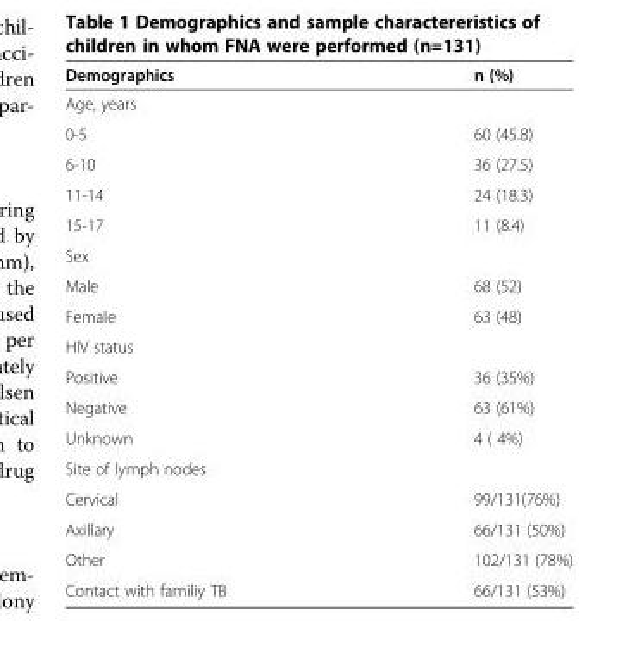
<table><thead><tr><td>Demographics</td><td>n (%)</td></tr></thead><tbody><tr><td colspan="2">Age, years</td></tr><tr><td>0-5</td><td>60 (45.8)</td></tr><tr><td>6-10</td><td>36 (27.5)</td></tr><tr><td>11-14</td><td>24 (18.3)</td></tr><tr><td>15-17</td><td>11 (8.4)</td></tr><tr><td colspan="2">Sex</td></tr><tr><td>Male</td><td>68 (52)</td></tr><tr><td>Female</td><td>63 (48)</td></tr><tr><td colspan="2">HIV status</td></tr><tr><td>Positive</td><td>36 (35%)</td></tr><tr><td>Negative</td><td>63 (61%)</td></tr><tr><td>Unknown</td><td>4 ( 4%)</td></tr><tr><td colspan="2">Site of lymph nodes</td></tr><tr><td>Cervical</td><td>99/131(76%)</td></tr><tr><td>Axillary</td><td>66/131 (50%)</td></tr><tr><td>Other</td><td>102/131 (78%)</td></tr><tr><td>Contact with familiy TB</td><td>66/131 (53%)</td></tr></tbody></table>